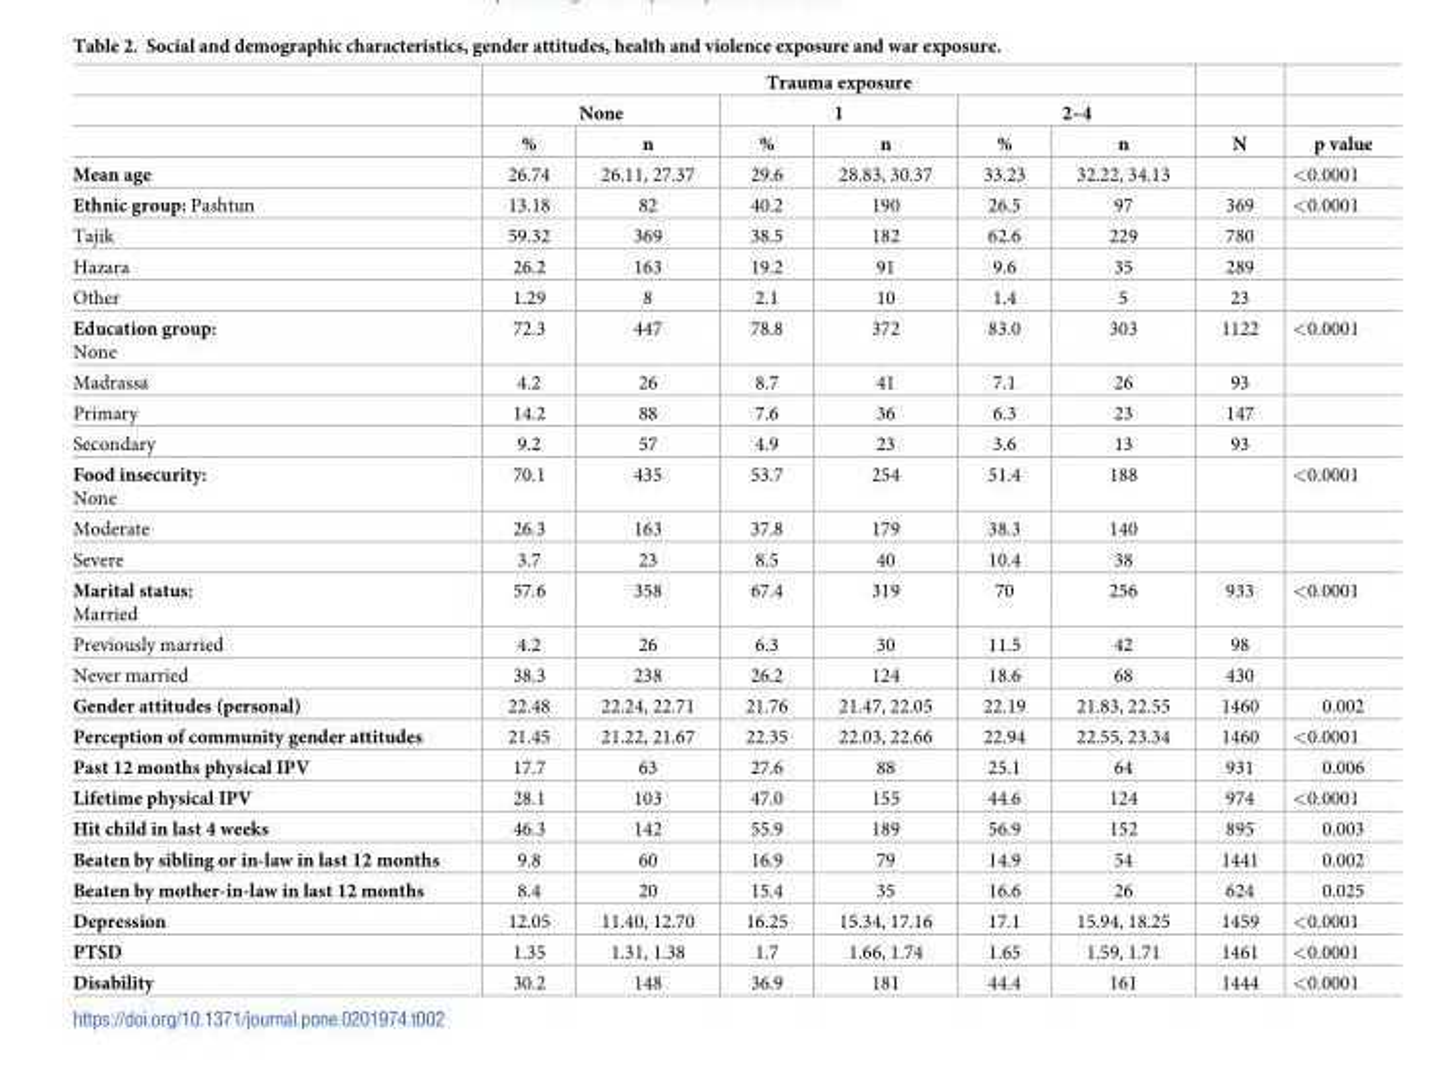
<table><thead><tr><td rowspan="3"></td><td colspan="6">Trauma exposure</td><td rowspan="3">N</td><td rowspan="3">p value</td></tr><tr><td colspan="2">None</td><td colspan="2">1</td><td colspan="2">2–4</td></tr><tr><td>%</td><td>n</td><td>%</td><td>n</td><td>%</td><td>n</td></tr></thead><tbody><tr><td>Mean age</td><td>26.74</td><td>26.11, 27.37</td><td>29.6</td><td>28.83, 30.37</td><td>33.23</td><td>32.22, 34.13</td><td></td><td>&lt;0.0001</td></tr><tr><td>Ethnic group: Pashtun</td><td>13.18</td><td>82</td><td>40.2</td><td>190</td><td>26.5</td><td>97</td><td>369</td><td>&lt;0.0001</td></tr><tr><td>Tajik</td><td>59.32</td><td>369</td><td>38.5</td><td>182</td><td>62.6</td><td>229</td><td>780</td><td></td></tr><tr><td>Hazara</td><td>26.2</td><td>163</td><td>19.2</td><td>91</td><td>9.6</td><td>35</td><td>289</td><td></td></tr><tr><td>Other</td><td>1.29</td><td>8</td><td>2.1</td><td>10</td><td>1.4</td><td>5</td><td>23</td><td></td></tr><tr><td>Education group: None</td><td>72.3</td><td>447</td><td>78.8</td><td>372</td><td>83.0</td><td>303</td><td>1122</td><td>&lt;0.0001</td></tr><tr><td>Madrassa</td><td>4.2</td><td>26</td><td>8.7</td><td>41</td><td>7.1</td><td>26</td><td>93</td><td></td></tr><tr><td>Primary</td><td>14.2</td><td>88</td><td>7.6</td><td>36</td><td>6.3</td><td>23</td><td>147</td><td></td></tr><tr><td>Secondary</td><td>9.2</td><td>57</td><td>4.9</td><td>23</td><td>3.6</td><td>13</td><td>93</td><td></td></tr><tr><td>Food insecurity: None</td><td>70.1</td><td>435</td><td>53.7</td><td>254</td><td>51.4</td><td>188</td><td></td><td>&lt;0.0001</td></tr><tr><td>Moderate</td><td>26.3</td><td>163</td><td>37.8</td><td>179</td><td>38.3</td><td>140</td><td></td><td></td></tr><tr><td>Severe</td><td>3.7</td><td>23</td><td>8.5</td><td>40</td><td>10.4</td><td>38</td><td></td><td></td></tr><tr><td>Marital status: Married</td><td>57.6</td><td>358</td><td>67.4</td><td>319</td><td>70</td><td>256</td><td>933</td><td>&lt;0.0001</td></tr><tr><td>Previously married</td><td>4.2</td><td>26</td><td>6.3</td><td>30</td><td>11.5</td><td>42</td><td>98</td><td></td></tr><tr><td>Never married</td><td>38.3</td><td>238</td><td>26.2</td><td>124</td><td>18.6</td><td>68</td><td>430</td><td></td></tr><tr><td>Gender attitudes (personal)</td><td>22.48</td><td>22.24, 22.71</td><td>21.76</td><td>21.47, 22.05</td><td>22.19</td><td>21.83, 22.55</td><td>1460</td><td>0.002</td></tr><tr><td>Perception of community gender attitudes</td><td>21.45</td><td>21.22, 21.67</td><td>22.35</td><td>22.03, 22.66</td><td>22.94</td><td>22.55, 23.34</td><td>1460</td><td>&lt;0.0001</td></tr><tr><td>Past 12 months physical IPV</td><td>17.7</td><td>63</td><td>27.6</td><td>88</td><td>25.1</td><td>64</td><td>931</td><td>0.006</td></tr><tr><td>Lifetime physical IPV</td><td>28.1</td><td>103</td><td>47.0</td><td>155</td><td>44.6</td><td>124</td><td>974</td><td>&lt;0.0001</td></tr><tr><td>Hit child in last 4 weeks</td><td>46.3</td><td>142</td><td>55.9</td><td>189</td><td>56.9</td><td>152</td><td>895</td><td>0.003</td></tr><tr><td>Beaten by sibling or in-law in last 12 months</td><td>9.8</td><td>60</td><td>16.9</td><td>79</td><td>14.9</td><td>54</td><td>1441</td><td>0.002</td></tr><tr><td>Beaten by mother-in-law in last 12 months</td><td>8.4</td><td>20</td><td>15.4</td><td>35</td><td>16.6</td><td>26</td><td>624</td><td>0.025</td></tr><tr><td>Depression</td><td>12.05</td><td>11.40, 12.70</td><td>16.25</td><td>15.34, 17.16</td><td>17.1</td><td>15.94, 18.25</td><td>1459</td><td>&lt;0.0001</td></tr><tr><td>PTSD</td><td>1.35</td><td>1.31, 1.38</td><td>1.7</td><td>1.66, 1.74</td><td>1.65</td><td>1.59, 1.71</td><td>1461</td><td>&lt;0.0001</td></tr><tr><td>Disability</td><td>30.2</td><td>148</td><td>36.9</td><td>181</td><td>44.4</td><td>161</td><td>1444</td><td>&lt;0.0001</td></tr></tbody></table>